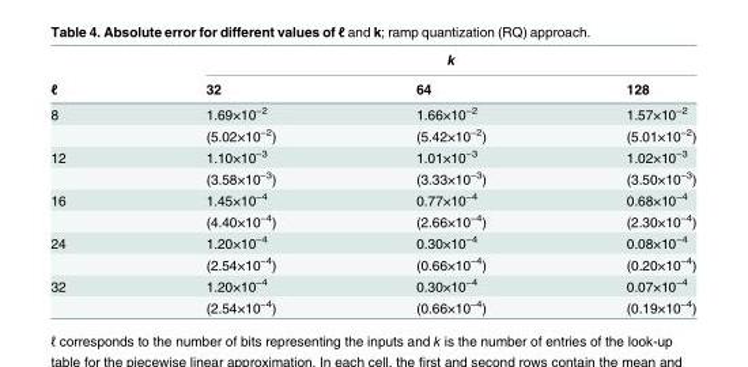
<table><thead><tr><td rowspan="2">ℓ</td><td colspan="3">k</td></tr><tr><td>32</td><td>64</td><td>128</td></tr></thead><tbody><tr><td rowspan="2">8</td><td>1.69×10<sup>−2</sup></td><td>1.66×10<sup>−2</sup></td><td>1.57×10<sup>−2</sup></td></tr><tr><td>(5.02×10<sup>−2</sup>)</td><td>(5.42×10<sup>−2</sup>)</td><td>(5.01×10<sup>−2</sup>)</td></tr><tr><td rowspan="2">12</td><td>1.10×10<sup>−3</sup></td><td>1.01×10<sup>−3</sup></td><td>1.02×10<sup>−3</sup></td></tr><tr><td>(3.58×10<sup>−3</sup>)</td><td>(3.33×10<sup>−3</sup>)</td><td>(3.50×10<sup>−3</sup>)</td></tr><tr><td rowspan="2">16</td><td>1.45×10<sup>−4</sup></td><td>0.77×10<sup>−4</sup></td><td>0.68×10<sup>−4</sup></td></tr><tr><td>(4.40×10<sup>−4</sup>)</td><td>(2.66×10<sup>−4</sup>)</td><td>(2.30×10<sup>−4</sup>)</td></tr><tr><td rowspan="2">24</td><td>1.20×10<sup>−4</sup></td><td>0.30×10<sup>−4</sup></td><td>0.08×10<sup>−4</sup></td></tr><tr><td>(2.54×10<sup>−4</sup>)</td><td>(0.66×10<sup>−4</sup>)</td><td>(0.20×10<sup>−4</sup>)</td></tr><tr><td rowspan="2">32</td><td>1.20×10<sup>−4</sup></td><td>0.30×10<sup>−4</sup></td><td>0.07×10<sup>−4</sup></td></tr><tr><td>(2.54×10<sup>−4</sup>)</td><td>(0.66×10<sup>−4</sup>)</td><td>(0.19×10<sup>−4</sup>)</td></tr></tbody></table>